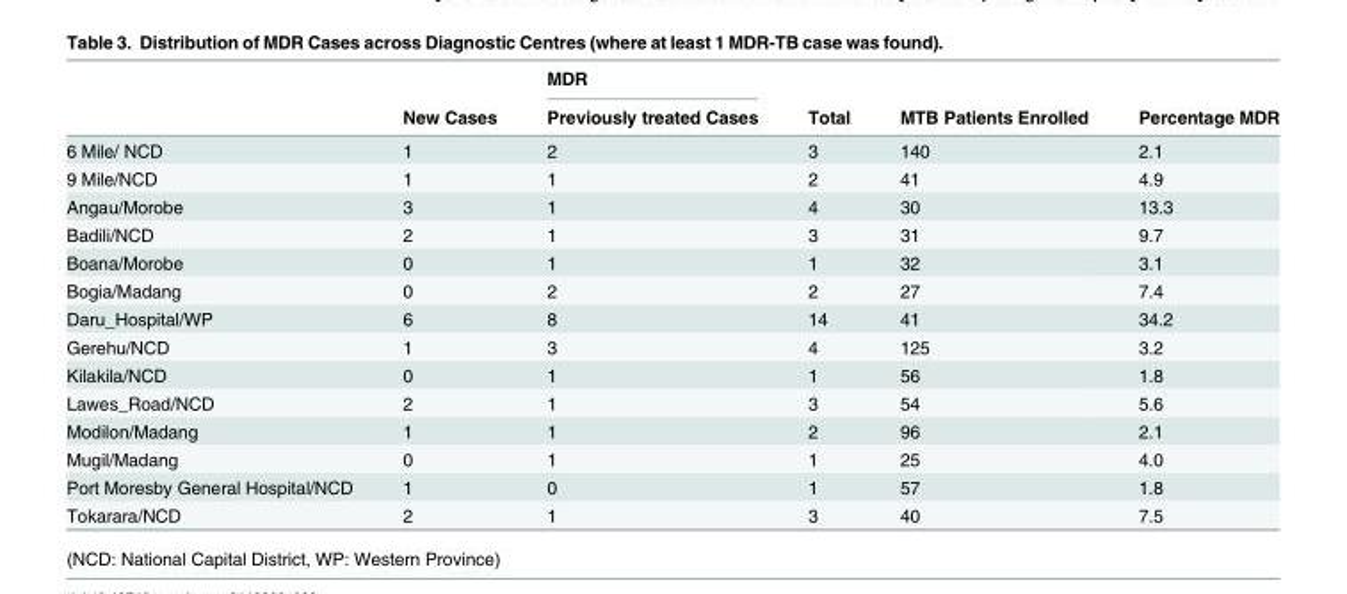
<table><thead><tr><td rowspan="2"></td><td rowspan="2">New Cases</td><td rowspan="2">MDR Previously treated Cases</td><td rowspan="2">Total</td><td rowspan="2">MTB Patients Enrolled</td><td rowspan="2">Percentage MDR</td></tr><tr></tr></thead><tbody><tr><td>6 Mile/ NCD</td><td>1</td><td>2</td><td>3</td><td>140</td><td>2.1</td></tr><tr><td>9 Mile/NCD</td><td>1</td><td>1</td><td>2</td><td>41</td><td>4.9</td></tr><tr><td>Angau/Morobe</td><td>3</td><td>1</td><td>4</td><td>30</td><td>13.3</td></tr><tr><td>Badili/NCD</td><td>2</td><td>1</td><td>3</td><td>31</td><td>9.7</td></tr><tr><td>Boana/Morobe</td><td>0</td><td>1</td><td>1</td><td>32</td><td>3.1</td></tr><tr><td>Bogia/Madang</td><td>0</td><td>2</td><td>2</td><td>27</td><td>7.4</td></tr><tr><td>Daru_Hospital/WP</td><td>6</td><td>8</td><td>14</td><td>41</td><td>34.2</td></tr><tr><td>Gerehu/NCD</td><td>1</td><td>3</td><td>4</td><td>125</td><td>3.2</td></tr><tr><td>Kilakila/NCD</td><td>0</td><td>1</td><td>1</td><td>56</td><td>1.8</td></tr><tr><td>Lawes_Road/NCD</td><td>2</td><td>1</td><td>3</td><td>54</td><td>5.6</td></tr><tr><td>Modilon/Madang</td><td>1</td><td>1</td><td>2</td><td>96</td><td>2.1</td></tr><tr><td>Mugil/Madang</td><td>0</td><td>1</td><td>1</td><td>25</td><td>4.0</td></tr><tr><td>Port Moresby General Hospital/NCD</td><td>1</td><td>0</td><td>1</td><td>57</td><td>1.8</td></tr><tr><td>Tokarara/NCD</td><td>2</td><td>1</td><td>3</td><td>40</td><td>7.5</td></tr></tbody></table>